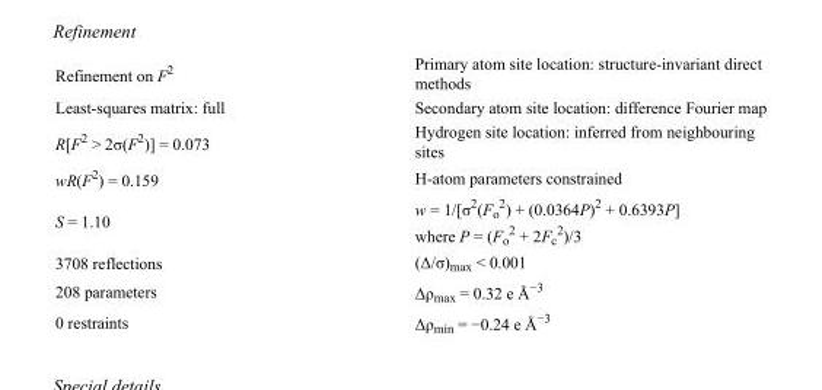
<table><tbody><tr><td>Refinement on F<sup>2</sup></td><td>Primary atom site location: structure-invariant direct methods</td></tr><tr><td>Least-squares matrix: full</td><td>Secondary atom site location: difference Fourier map</td></tr><tr><td>R[F<sup>2</sup> &gt; 2σ(F<sup>2</sup>)] = 0.073</td><td>Hydrogen site location: inferred from neighbouring sites</td></tr><tr><td>wR(F<sup>2</sup>) = 0.159</td><td>H-atom parameters constrained</td></tr><tr><td>S = 1.10</td><td>w = 1/[σ<sup>2</sup>(F<sub>o</sub> <sup>2</sup>) + (0.0364P)<sup>2</sup> + 0.6393P] where P = (F<sub>o</sub> <sup>2</sup> + 2F<sub>c</sub> <sup>2</sup>)/3</td></tr><tr><td>3708 reflections</td><td>(Δ/σ)<sub>max</sub> &lt; 0.001</td></tr><tr><td>208 parameters</td><td>Δρ<sub>max</sub> = 0.32 e Å<sup>−3</sup></td></tr><tr><td>0 restraints</td><td>Δρ<sub>min</sub> = −0.24 e Å<sup>−3</sup></td></tr></tbody></table>